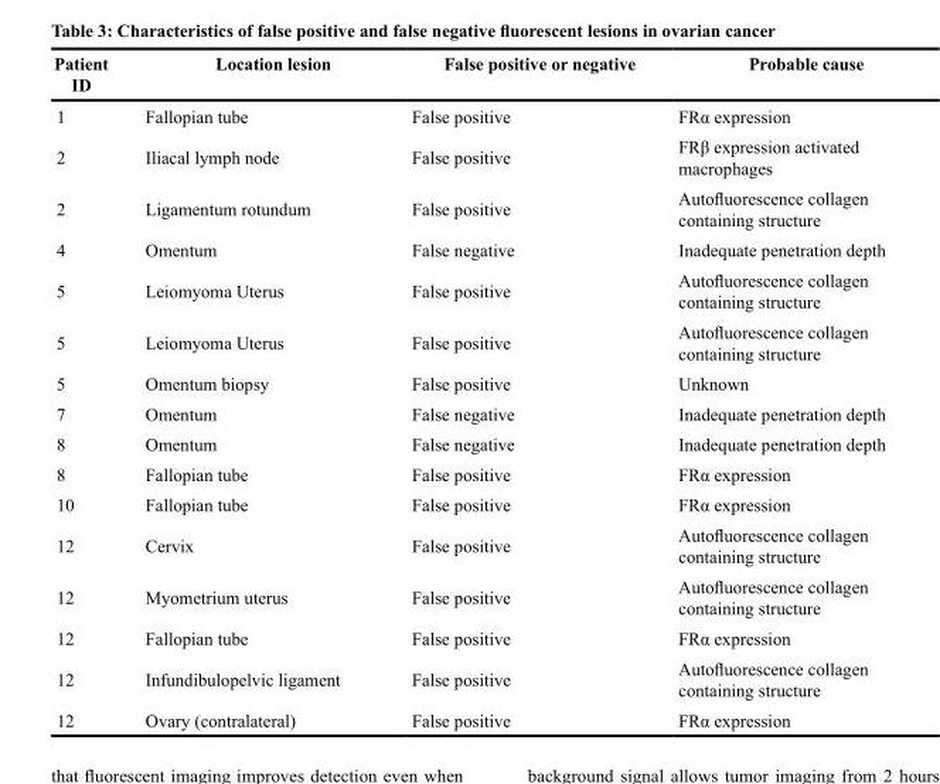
<table><thead><tr><td>Patient ID</td><td>Location lesion</td><td>False positive or negative</td><td>Probable cause</td></tr></thead><tbody><tr><td>1</td><td>Fallopian tube</td><td>False positive</td><td>FRα expression</td></tr><tr><td>2</td><td>Iliacal lymph node</td><td>False positive</td><td>FRβ expression activated macrophages</td></tr><tr><td>2</td><td>Ligamentum rotundum</td><td>False positive</td><td>Autofluorescence collagen containing structure</td></tr><tr><td>4</td><td>Omentum</td><td>False negative</td><td>Inadequate penetration depth</td></tr><tr><td>5</td><td>Leiomyoma Uterus</td><td>False positive</td><td>Autofluorescence collagen containing structure</td></tr><tr><td>5</td><td>Leiomyoma Uterus</td><td>False positive</td><td>Autofluorescence collagen containing structure</td></tr><tr><td>5</td><td>Omentum biopsy</td><td>False positive</td><td>Unknown</td></tr><tr><td>7</td><td>Omentum</td><td>False negative</td><td>Inadequate penetration depth</td></tr><tr><td>8</td><td>Omentum</td><td>False negative</td><td>Inadequate penetration depth</td></tr><tr><td>8</td><td>Fallopian tube</td><td>False positive</td><td>FRα expression</td></tr><tr><td>10</td><td>Fallopian tube</td><td>False positive</td><td>FRα expression</td></tr><tr><td>12</td><td>Cervix</td><td>False positive</td><td>Autofluorescence collagen containing structure</td></tr><tr><td>12</td><td>Myometrium uterus</td><td>False positive</td><td>Autofluorescence collagen containing structure</td></tr><tr><td>12</td><td>Fallopian tube</td><td>False positive</td><td>FRα expression</td></tr><tr><td>12</td><td>Infundibulopelvic ligament</td><td>False positive</td><td>Autofluorescence collagen containing structure</td></tr><tr><td>12</td><td>Ovary (contralateral)</td><td>False positive</td><td>FRα expression</td></tr></tbody></table>